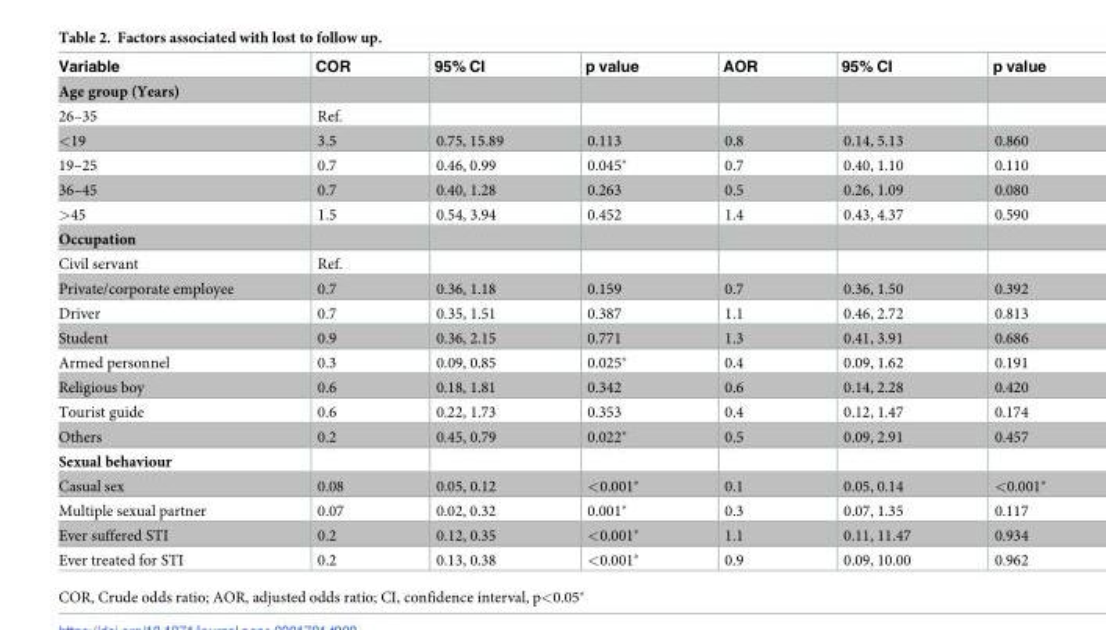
<table><thead><tr><td>Variable</td><td>COR</td><td>95% CI</td><td>p value</td><td>AOR</td><td>95% CI</td><td>p value</td></tr></thead><tbody><tr><td colspan="7">Age group (Years)</td></tr><tr><td>26–35</td><td>Ref.</td><td></td><td></td><td></td><td></td><td></td></tr><tr><td>&lt;19</td><td>3.5</td><td>0.75, 15.89</td><td>0.113</td><td>0.8</td><td>0.14, 5.13</td><td>0.860</td></tr><tr><td>19–25</td><td>0.7</td><td>0.46, 0.99</td><td>0.045*</td><td>0.7</td><td>0.40, 1.10</td><td>0.110</td></tr><tr><td>36–45</td><td>0.7</td><td>0.40, 1.28</td><td>0.263</td><td>0.5</td><td>0.26, 1.09</td><td>0.080</td></tr><tr><td>&gt;45</td><td>1.5</td><td>0.54, 3.94</td><td>0.452</td><td>1.4</td><td>0.43, 4.37</td><td>0.590</td></tr><tr><td colspan="7">Occupation</td></tr><tr><td>Civil servant</td><td>Ref.</td><td></td><td></td><td></td><td></td><td></td></tr><tr><td>Private/corporate employee</td><td>0.7</td><td>0.36, 1.18</td><td>0.159</td><td>0.7</td><td>0.36, 1.50</td><td>0.392</td></tr><tr><td>Driver</td><td>0.7</td><td>0.35, 1.51</td><td>0.387</td><td>1.1</td><td>0.46, 2.72</td><td>0.813</td></tr><tr><td>Student</td><td>0.9</td><td>0.36, 2.15</td><td>0.771</td><td>1.3</td><td>0.41, 3.91</td><td>0.686</td></tr><tr><td>Armed personnel</td><td>0.3</td><td>0.09, 0.85</td><td>0.025*</td><td>0.4</td><td>0.09, 1.62</td><td>0.191</td></tr><tr><td>Religious boy</td><td>0.6</td><td>0.18, 1.81</td><td>0.342</td><td>0.6</td><td>0.14, 2.28</td><td>0.420</td></tr><tr><td>Tourist guide</td><td>0.6</td><td>0.22, 1.73</td><td>0.353</td><td>0.4</td><td>0.12, 1.47</td><td>0.174</td></tr><tr><td>Others</td><td>0.2</td><td>0.45, 0.79</td><td>0.022*</td><td>0.5</td><td>0.09, 2.91</td><td>0.457</td></tr><tr><td colspan="7">Sexual behaviour</td></tr><tr><td>Casual sex</td><td>0.08</td><td>0.05, 0.12</td><td>&lt;0.001*</td><td>0.1</td><td>0.05, 0.14</td><td>&lt;0.001*</td></tr><tr><td>Multiple sexual partner</td><td>0.07</td><td>0.02, 0.32</td><td>0.001*</td><td>0.3</td><td>0.07, 1.35</td><td>0.117</td></tr><tr><td>Ever suffered STI</td><td>0.2</td><td>0.12, 0.35</td><td>&lt;0.001*</td><td>1.1</td><td>0.11, 11.47</td><td>0.934</td></tr><tr><td>Ever treated for STI</td><td>0.2</td><td>0.13, 0.38</td><td>&lt;0.001*</td><td>0.9</td><td>0.09, 10.00</td><td>0.962</td></tr></tbody></table>